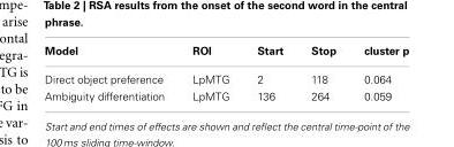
<table><thead><tr><td>Model</td><td>ROI</td><td>Start</td><td>Stop</td><td>cluster p</td></tr></thead><tbody><tr><td>Direct object preference</td><td>LpMTG</td><td>2</td><td>118</td><td>0.064</td></tr><tr><td>Ambiguity differentiation</td><td>LpMTG</td><td>136</td><td>264</td><td>0.059</td></tr></tbody></table>